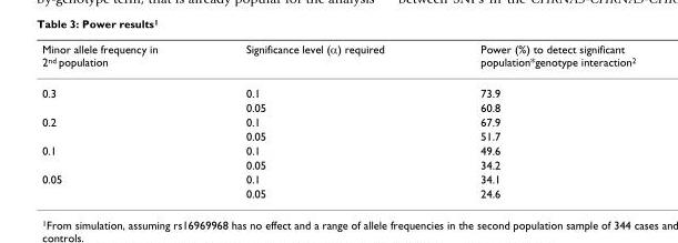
<table><thead><tr><td>Minor allele frequency in 2<sup>nd</sup> population</td><td>Significance level (α) required</td><td>Power (%) to detect significant population*genotype interaction<sup>2</sup></td></tr></thead><tbody><tr><td rowspan="2">0.3</td><td>0.1</td><td>73.9</td></tr><tr><td>0.05</td><td>60.8</td></tr><tr><td rowspan="2">0.2</td><td>0.1</td><td>67.9</td></tr><tr><td>0.05</td><td>51.7</td></tr><tr><td rowspan="2">0.1</td><td>0.1</td><td>49.6</td></tr><tr><td>0.05</td><td>34.2</td></tr><tr><td rowspan="2">0.05</td><td>0.1</td><td>34.1</td></tr><tr><td>0.05</td><td>24.6</td></tr></tbody></table>